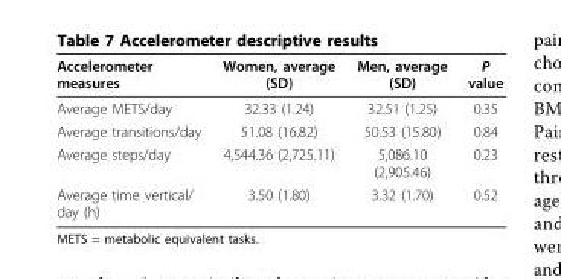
<table><thead><tr><td>Accelerometer measures</td><td>Women, average (SD)</td><td>Men, average (SD)</td><td>P value</td></tr></thead><tbody><tr><td>Average METS/day</td><td>32.33 (1.24)</td><td>32.51 (1.25)</td><td>0.35</td></tr><tr><td>Average transitions/day</td><td>51.08 (16.82)</td><td>50.53 (15.80)</td><td>0.84</td></tr><tr><td>Average steps/day</td><td>4,544.36 (2,725.11)</td><td>5,086.10 (2,905.46)</td><td>0.23</td></tr><tr><td>Average time vertical/ day (h)</td><td>3.50 (1.80)</td><td>3.32 (1.70)</td><td>0.52</td></tr></tbody></table>